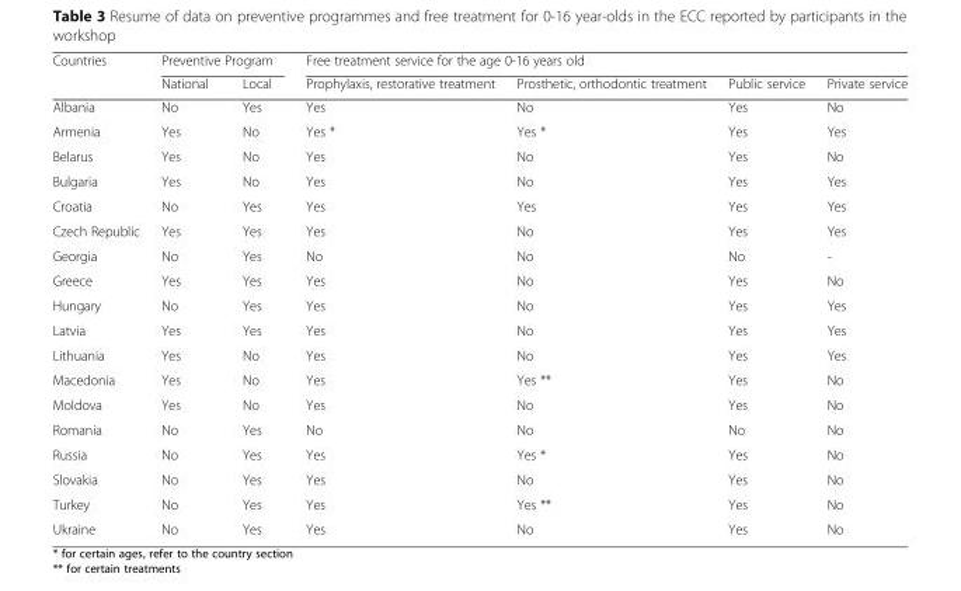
<table><thead><tr><td rowspan="2">Countries</td><td colspan="2">Preventive Program</td><td colspan="4">Free treatment service for the age 0-16 years old</td></tr><tr><td>National</td><td>Local</td><td>Prophylaxis, restorative treatment</td><td>Prosthetic, orthodontic treatment</td><td>Public service</td><td>Private service</td></tr></thead><tbody><tr><td>Albania</td><td>No</td><td>Yes</td><td>Yes</td><td>No</td><td>Yes</td><td>No</td></tr><tr><td>Armenia</td><td>Yes</td><td>No</td><td>Yes *</td><td>Yes *</td><td>Yes</td><td>Yes</td></tr><tr><td>Belarus</td><td>Yes</td><td>No</td><td>Yes</td><td>No</td><td>Yes</td><td>No</td></tr><tr><td>Bulgaria</td><td>Yes</td><td>No</td><td>Yes</td><td>No</td><td>Yes</td><td>Yes</td></tr><tr><td>Croatia</td><td>No</td><td>Yes</td><td>Yes</td><td>Yes</td><td>Yes</td><td>Yes</td></tr><tr><td>Czech Republic</td><td>Yes</td><td>Yes</td><td>Yes</td><td>No</td><td>Yes</td><td>Yes</td></tr><tr><td>Georgia</td><td>No</td><td>Yes</td><td>No</td><td>No</td><td>No</td><td>-</td></tr><tr><td>Greece</td><td>Yes</td><td>Yes</td><td>Yes</td><td>No</td><td>Yes</td><td>No</td></tr><tr><td>Hungary</td><td>No</td><td>Yes</td><td>Yes</td><td>No</td><td>Yes</td><td>Yes</td></tr><tr><td>Latvia</td><td>Yes</td><td>Yes</td><td>Yes</td><td>No</td><td>Yes</td><td>Yes</td></tr><tr><td>Lithuania</td><td>Yes</td><td>No</td><td>Yes</td><td>No</td><td>Yes</td><td>Yes</td></tr><tr><td>Macedonia</td><td>Yes</td><td>No</td><td>Yes</td><td>Yes **</td><td>Yes</td><td>No</td></tr><tr><td>Moldova</td><td>Yes</td><td>No</td><td>Yes</td><td>No</td><td>Yes</td><td>No</td></tr><tr><td>Romania</td><td>No</td><td>Yes</td><td>No</td><td>No</td><td>No</td><td>No</td></tr><tr><td>Russia</td><td>No</td><td>Yes</td><td>Yes</td><td>Yes *</td><td>Yes</td><td>No</td></tr><tr><td>Slovakia</td><td>No</td><td>Yes</td><td>Yes</td><td>No</td><td>Yes</td><td>No</td></tr><tr><td>Turkey</td><td>No</td><td>Yes</td><td>Yes</td><td>Yes **</td><td>Yes</td><td>No</td></tr><tr><td>Ukraine</td><td>No</td><td>Yes</td><td>Yes</td><td>No</td><td>Yes</td><td>No</td></tr></tbody></table>